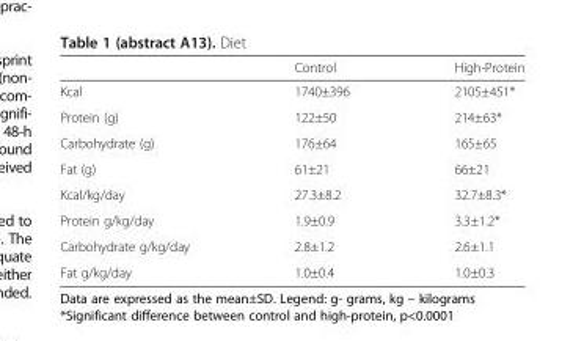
<table><thead><tr><td></td><td>Control</td><td>High-Protein</td></tr></thead><tbody><tr><td>Kcal</td><td>1740±396</td><td>2105±451*</td></tr><tr><td>Protein (g)</td><td>122±50</td><td>214±63*</td></tr><tr><td>Carbohydrate (g)</td><td>176±64</td><td>165±65</td></tr><tr><td>Fat (g)</td><td>61±21</td><td>66±21</td></tr><tr><td>Kcal/kg/day</td><td>27.3±8.2</td><td>32.7±8.3*</td></tr><tr><td>Protein g/kg/day</td><td>1.9±0.9</td><td>3.3±1.2*</td></tr><tr><td>Carbohydrate g/kg/day</td><td>2.8±1.2</td><td>2.6±1.1</td></tr><tr><td>Fat g/kg/day</td><td>1.0±0.4</td><td>1.0±0.3</td></tr></tbody></table>